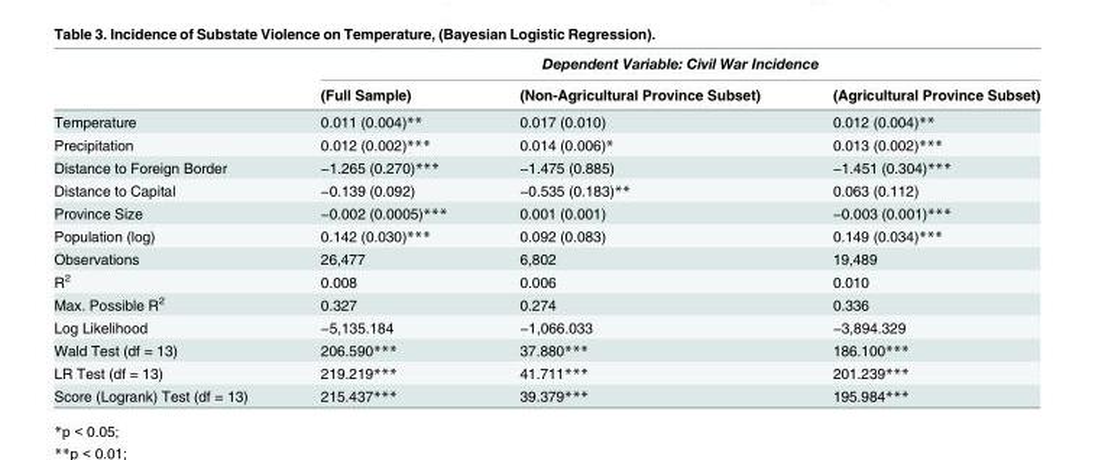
<table><thead><tr><td rowspan="2"></td><td colspan="3">Dependent Variable: Civil War Incidence</td></tr><tr><td>(Full Sample)</td><td>(Non-Agricultural Province Subset)</td><td>(Agricultural Province Subset)</td></tr></thead><tbody><tr><td>Temperature</td><td>0.011 (0.004)**</td><td>0.017 (0.010)</td><td>0.012 (0.004)**</td></tr><tr><td>Precipitation</td><td>0.012 (0.002)***</td><td>0.014 (0.006)*</td><td>0.013 (0.002)***</td></tr><tr><td>Distance to Foreign Border</td><td>−1.265 (0.270)***</td><td>−1.475 (0.885)</td><td>−1.451 (0.304)***</td></tr><tr><td>Distance to Capital</td><td>−0.139 (0.092)</td><td>−0.535 (0.183)**</td><td>0.063 (0.112)</td></tr><tr><td>Province Size</td><td>−0.002 (0.0005)***</td><td>0.001 (0.001)</td><td>−0.003 (0.001)***</td></tr><tr><td>Population (log)</td><td>0.142 (0.030)***</td><td>0.092 (0.083)</td><td>0.149 (0.034)***</td></tr><tr><td>Observations</td><td>26,477</td><td>6,802</td><td>19,489</td></tr><tr><td>R<sup>2</sup></td><td>0.008</td><td>0.006</td><td>0.010</td></tr><tr><td>Max. Possible R<sup>2</sup></td><td>0.327</td><td>0.274</td><td>0.336</td></tr><tr><td>Log Likelihood</td><td>−5,135.184</td><td>−1,066.033</td><td>−3,894.329</td></tr><tr><td>Wald Test (df = 13)</td><td>206.590***</td><td>37.880***</td><td>186.100***</td></tr><tr><td>LR Test (df = 13)</td><td>219.219***</td><td>41.711***</td><td>201.239***</td></tr><tr><td>Score (Logrank) Test (df = 13)</td><td>215.437***</td><td>39.379***</td><td>195.984***</td></tr></tbody></table>